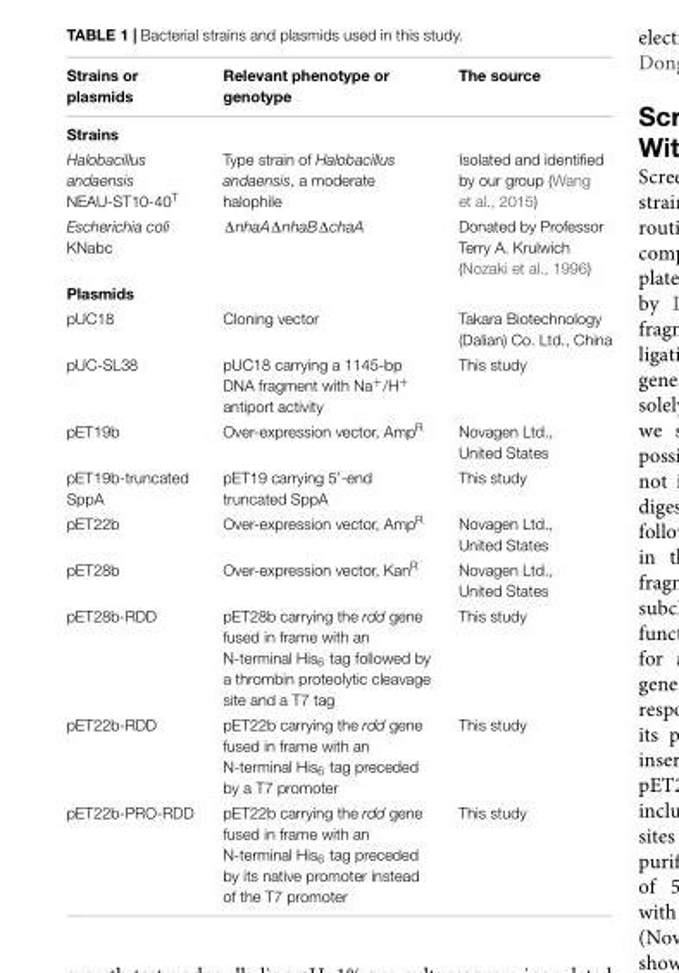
<table><thead><tr><td>Strains or plasmids</td><td>Relevant phenotype or genotype</td><td>The source</td></tr></thead><tbody><tr><td colspan="3">Strains</td></tr><tr><td>Halobacillus andaensis NEAU-ST10-40<sup>T</sup></td><td>Type strain of Halobacillus andaensis, a moderate halophile</td><td>Isolated and identified by our group (Wang et al., 2015)</td></tr><tr><td>Escherichia coli KNabc</td><td>ΔnhaAΔnhaBΔchaA</td><td>Donated by Professor Terry A. Krulwich (Nozaki et al., 1996)</td></tr><tr><td colspan="3">Plasmids</td></tr><tr><td>pUC18</td><td>Cloning vector</td><td>Takara Biotechnology (Dalian) Co. Ltd., China</td></tr><tr><td>pUC-SL38</td><td>pUC18 carrying a 1145-bp DNA fragment with Na<sup>+</sup>/H<sup>+</sup> antiport activity</td><td>This study</td></tr><tr><td>pET19b</td><td>Over-expression vector, Amp<sup>R</sup></td><td>Novagen Ltd., United States</td></tr><tr><td>pET19b-truncated SppA</td><td>pET19 carrying 5′-end truncated SppA</td><td>This study</td></tr><tr><td>pET22b</td><td>Over-expression vector, Amp<sup>R</sup></td><td>Novagen Ltd., United States</td></tr><tr><td>pET28b</td><td>Over-expression vector, Kan<sup>R</sup></td><td>Novagen Ltd., United States</td></tr><tr><td>pET28b-RDD</td><td>pET28b carrying the rdd gene fused in frame with an N-terminal His<sub>6</sub> tag followed by a thrombin proteolytic cleavage site and a T7 tag</td><td>This study</td></tr><tr><td>pET22b-RDD</td><td>pET22b carrying the rdd gene fused in frame with an N-terminal His<sub>6</sub> tag preceded by a T7 promoter</td><td>This study</td></tr><tr><td>pET22b-PRO-RDD</td><td>pET22b carrying the rdd gene fused in frame with an N-terminal His<sub>6</sub> tag preceded by its native promoter instead of the T7 promoter</td><td>This study</td></tr></tbody></table>